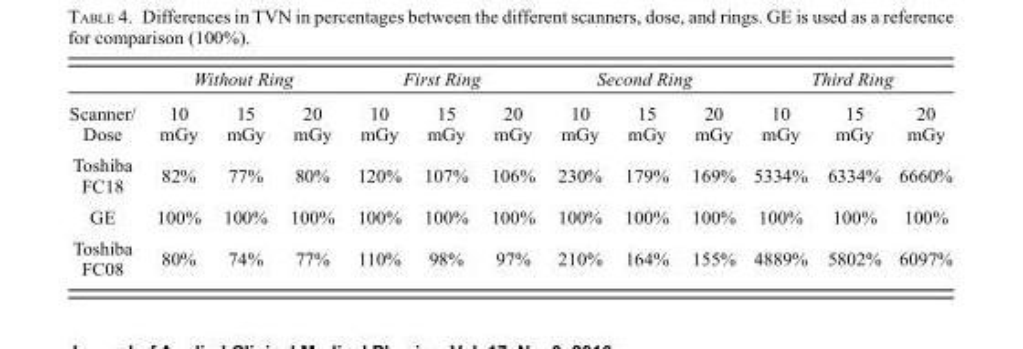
<table><thead><tr><td rowspan="2">Scanner/ Dose</td><td colspan="3">Without Ring</td><td colspan="3">First Ring</td><td colspan="3">Second Ring</td><td colspan="3">Third Ring</td></tr><tr><td>10 mGy</td><td>15 mGy</td><td>20 mGy</td><td>10 mGy</td><td>15 mGy</td><td>20 mGy</td><td>10 mGy</td><td>15 mGy</td><td>20 mGy</td><td>10 mGy</td><td>15 mGy</td><td>20 mGy</td></tr></thead><tbody><tr><td>Toshiba FC18</td><td>82%</td><td>77%</td><td>80%</td><td>120%</td><td>107%</td><td>106%</td><td>230%</td><td>179%</td><td>169%</td><td>5334%</td><td>6334%</td><td>6660%</td></tr><tr><td>GE</td><td>100%</td><td>100%</td><td>100%</td><td>100%</td><td>100%</td><td>100%</td><td>100%</td><td>100%</td><td>100%</td><td>100%</td><td>100%</td><td>100%</td></tr><tr><td>Toshiba FC08</td><td>80%</td><td>74%</td><td>77%</td><td>110%</td><td>98%</td><td>97%</td><td>210%</td><td>164%</td><td>155%</td><td>4889%</td><td>5802%</td><td>6097%</td></tr></tbody></table>